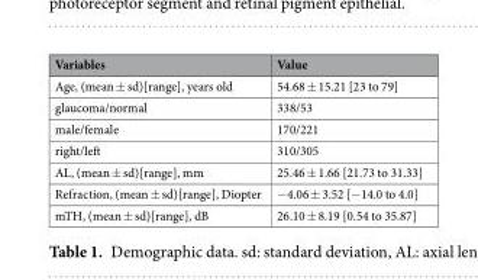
<table><thead><tr><td>Variables</td><td>Value</td></tr></thead><tbody><tr><td>Age, (mean ± sd)[range], years old</td><td>54.68 ± 15.21 [23 to 79]</td></tr><tr><td>glaucoma/normal</td><td>338/53</td></tr><tr><td>male/female</td><td>170/221</td></tr><tr><td>right/left</td><td>310/305</td></tr><tr><td>AL, (mean ± sd)[range], mm</td><td>25.46 ± 1.66 [21.73 to 31.33]</td></tr><tr><td>Refraction, (mean ± sd)[range], Diopter</td><td>−4.06 ± 3.52 [−14.0 to 4.0]</td></tr><tr><td>mTH, (mean ± sd)[range], dB</td><td>26.10 ± 8.19 [0.54 to 35.87]</td></tr></tbody></table>